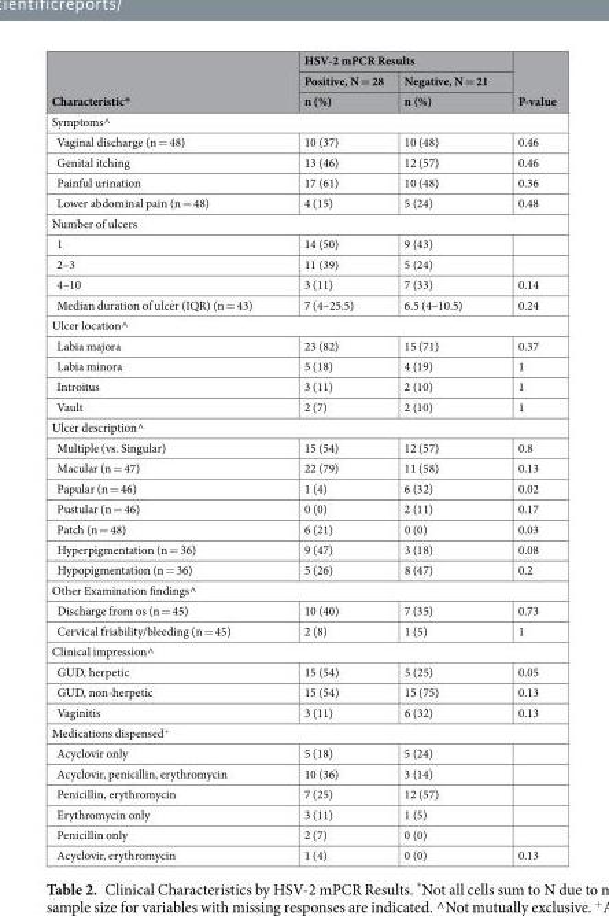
<table><thead><tr><td rowspan="3">Characteristic*</td><td colspan="2">HSV-2 mPCR Results</td><td rowspan="3">P-value</td></tr><tr><td rowspan="2">Positive, N = 28 n (%)</td><td rowspan="2">Negative, N = 21 n (%)</td></tr><tr></tr></thead><tbody><tr><td colspan="4">Symptoms^</td></tr><tr><td>Vaginal discharge (n = 48)</td><td>10 (37)</td><td>10 (48)</td><td>0.46</td></tr><tr><td>Genital itching</td><td>13 (46)</td><td>12 (57)</td><td>0.46</td></tr><tr><td>Painful urination</td><td>17 (61)</td><td>10 (48)</td><td>0.36</td></tr><tr><td>Lower abdominal pain (n = 48)</td><td>4 (15)</td><td>5 (24)</td><td>0.48</td></tr><tr><td colspan="4">Number of ulcers</td></tr><tr><td>1</td><td>14 (50)</td><td>9 (43)</td><td></td></tr><tr><td>2–3</td><td>11 (39)</td><td>5 (24)</td><td></td></tr><tr><td>4–10</td><td>3 (11)</td><td>7 (33)</td><td>0.14</td></tr><tr><td>Median duration of ulcer (IQR) (n = 43)</td><td>7 (4–25.5)</td><td>6.5 (4–10.5)</td><td>0.24</td></tr><tr><td colspan="4">Ulcer location^</td></tr><tr><td>Labia majora</td><td>23 (82)</td><td>15 (71)</td><td>0.37</td></tr><tr><td>Labia minora</td><td>5 (18)</td><td>4 (19)</td><td>1</td></tr><tr><td>Introitus</td><td>3 (11)</td><td>2 (10)</td><td>1</td></tr><tr><td>Vault</td><td>2 (7)</td><td>2 (10)</td><td>1</td></tr><tr><td colspan="4">Ulcer description^</td></tr><tr><td>Multiple (vs. Singular)</td><td>15 (54)</td><td>12 (57)</td><td>0.8</td></tr><tr><td>Macular (n = 47)</td><td>22 (79)</td><td>11 (58)</td><td>0.13</td></tr><tr><td>Papular (n = 46)</td><td>1 (4)</td><td>6 (32)</td><td>0.02</td></tr><tr><td>Pustular (n = 46)</td><td>0 (0)</td><td>2 (11)</td><td>0.17</td></tr><tr><td>Patch (n = 48)</td><td>6 (21)</td><td>0 (0)</td><td>0.03</td></tr><tr><td>Hyperpigmentation (n = 36)</td><td>9 (47)</td><td>3 (18)</td><td>0.08</td></tr><tr><td>Hypopigmentation (n = 36)</td><td>5 (26)</td><td>8 (47)</td><td>0.2</td></tr><tr><td colspan="4">Other Examination findings^</td></tr><tr><td>Discharge from os (n = 45)</td><td>10 (40)</td><td>7 (35)</td><td>0.73</td></tr><tr><td>Cervical friability/bleeding (n = 45)</td><td>2 (8)</td><td>1 (5)</td><td>1</td></tr><tr><td colspan="4">Clinical impression^</td></tr><tr><td>GUD, herpetic</td><td>15 (54)</td><td>5 (25)</td><td>0.05</td></tr><tr><td>GUD, non-herpetic</td><td>15 (54)</td><td>15 (75)</td><td>0.13</td></tr><tr><td>Vaginitis</td><td>3 (11)</td><td>6 (32)</td><td>0.13</td></tr><tr><td colspan="4">Medications dispensed<sup>+</sup></td></tr><tr><td>Acyclovir only</td><td>5 (18)</td><td>5 (24)</td><td></td></tr><tr><td>Acyclovir, penicillin, erythromycin</td><td>10 (36)</td><td>3 (14)</td><td></td></tr><tr><td>Penicillin, erythromycin</td><td>7 (25)</td><td>12 (57)</td><td></td></tr><tr><td>Erythromycin only</td><td>3 (11)</td><td>1 (5)</td><td></td></tr><tr><td>Penicillin only</td><td>2 (7)</td><td>0 (0)</td><td></td></tr><tr><td>Acyclovir, erythromycin</td><td>1 (4)</td><td>0 (0)</td><td>0.13</td></tr></tbody></table>